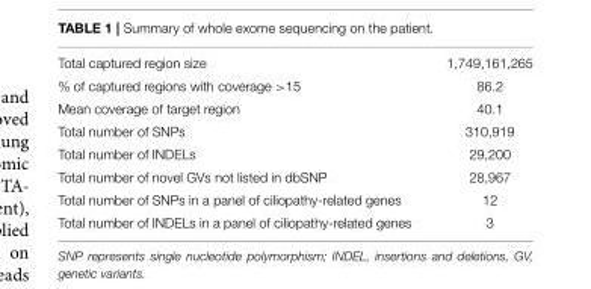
<table><tbody><tr><td>Total captured region size</td><td>1,749,161,265</td></tr><tr><td>% of captured regions with coverage &gt;15</td><td>86.2</td></tr><tr><td>Mean coverage of target region</td><td>40.1</td></tr><tr><td>Total number of SNPs</td><td>310,919</td></tr><tr><td>Total number of INDELs</td><td>29,200</td></tr><tr><td>Total number of novel GVs not listed in dbSNP</td><td>28,967</td></tr><tr><td>Total number of SNPs in a panel of ciliopathy-related genes</td><td>12</td></tr><tr><td>Total number of INDELs in a panel of ciliopathy-related genes</td><td>3</td></tr></tbody></table>